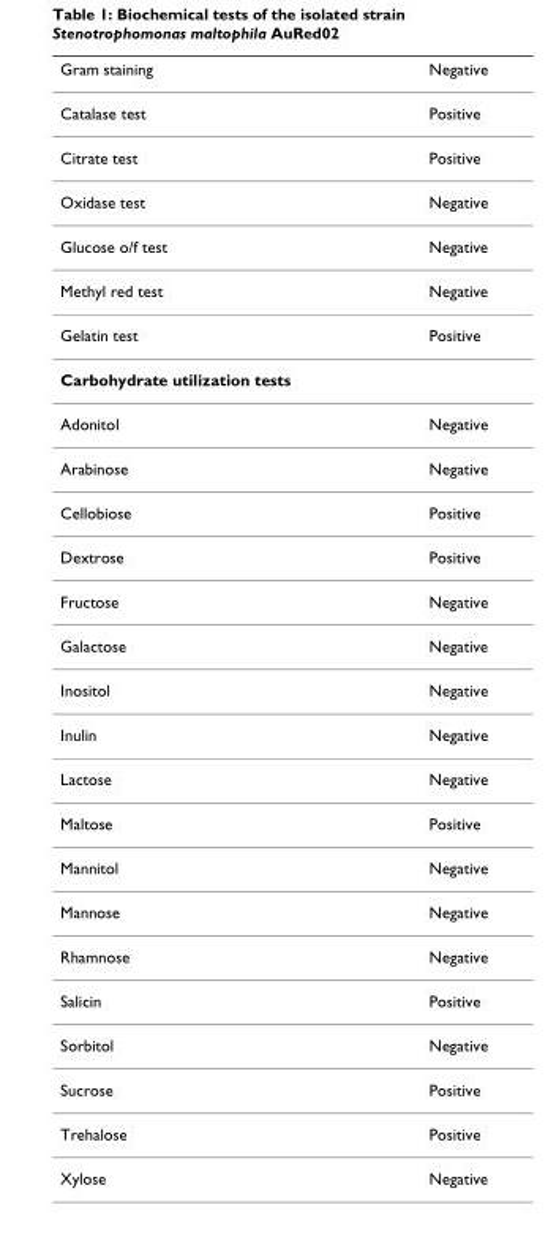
<table><thead><tr><td>Gram staining</td><td>Negative</td></tr></thead><tbody><tr><td>Catalase test</td><td>Positive</td></tr><tr><td>Citrate test</td><td>Positive</td></tr><tr><td>Oxidase test</td><td>Negative</td></tr><tr><td>Glucose o/f test</td><td>Negative</td></tr><tr><td>Methyl red test</td><td>Negative</td></tr><tr><td>Gelatin test</td><td>Positive</td></tr><tr><td colspan="2">Carbohydrate utilization tests</td></tr><tr><td>Adonitol</td><td>Negative</td></tr><tr><td>Arabinose</td><td>Negative</td></tr><tr><td>Cellobiose</td><td>Positive</td></tr><tr><td>Dextrose</td><td>Positive</td></tr><tr><td>Fructose</td><td>Negative</td></tr><tr><td>Galactose</td><td>Negative</td></tr><tr><td>Inositol</td><td>Negative</td></tr><tr><td>Inulin</td><td>Negative</td></tr><tr><td>Lactose</td><td>Negative</td></tr><tr><td>Maltose</td><td>Positive</td></tr><tr><td>Mannitol</td><td>Negative</td></tr><tr><td>Mannose</td><td>Negative</td></tr><tr><td>Rhamnose</td><td>Negative</td></tr><tr><td>Salicin</td><td>Positive</td></tr><tr><td>Sorbitol</td><td>Negative</td></tr><tr><td>Sucrose</td><td>Positive</td></tr><tr><td>Trehalose</td><td>Positive</td></tr><tr><td>Xylose</td><td>Negative</td></tr></tbody></table>